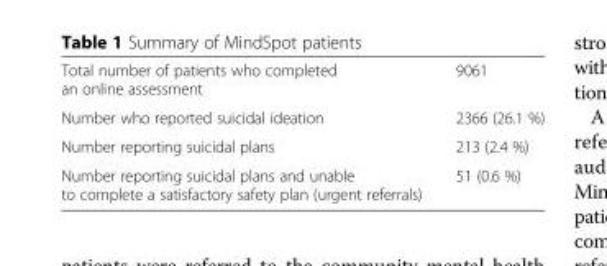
<table><tbody><tr><td>Total number of patients who completed an online assessment</td><td>9061</td></tr><tr><td>Number who reported suicidal ideation</td><td>2366 (26.1 %)</td></tr><tr><td>Number reporting suicidal plans</td><td>213 (2.4 %)</td></tr><tr><td>Number reporting suicidal plans and unable to complete a satisfactory safety plan (urgent referrals)</td><td>51 (0.6 %)</td></tr></tbody></table>